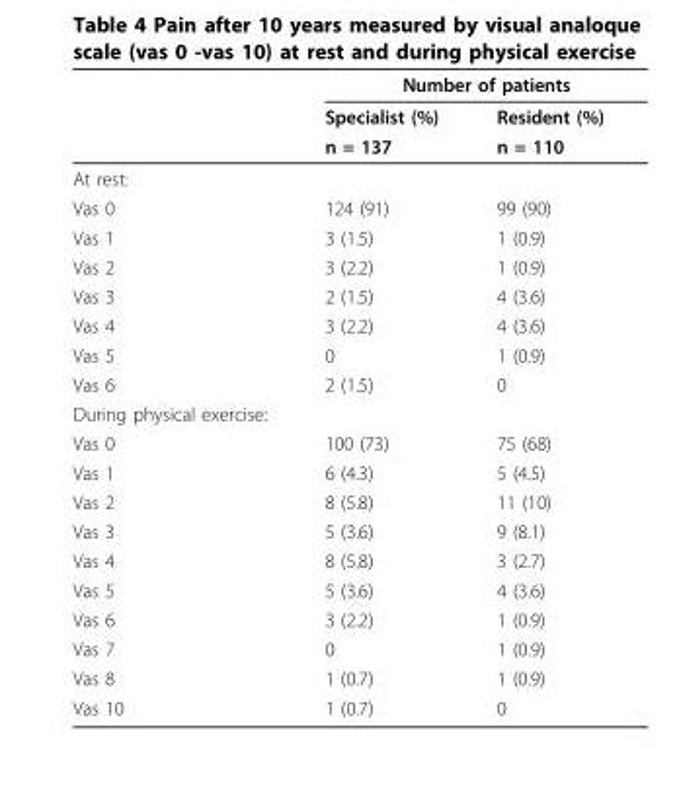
<table><thead><tr><td rowspan="3"></td><td colspan="2">Number of patients</td></tr><tr><td rowspan="2">Specialist (%) n = 137</td><td rowspan="2">Resident (%) n = 110</td></tr><tr></tr></thead><tbody><tr><td colspan="3">At rest:</td></tr><tr><td>Vas 0</td><td>124 (91)</td><td>99 (90)</td></tr><tr><td>Vas 1</td><td>3 (1.5)</td><td>1 (0.9)</td></tr><tr><td>Vas 2</td><td>3 (2.2)</td><td>1 (0.9)</td></tr><tr><td>Vas 3</td><td>2 (1.5)</td><td>4 (3.6)</td></tr><tr><td>Vas 4</td><td>3 (2.2)</td><td>4 (3.6)</td></tr><tr><td>Vas 5</td><td>0</td><td>1 (0.9)</td></tr><tr><td>Vas 6</td><td>2 (1.5)</td><td>0</td></tr><tr><td colspan="3">During physical exercise:</td></tr><tr><td>Vas 0</td><td>100 (73)</td><td>75 (68)</td></tr><tr><td>Vas 1</td><td>6 (4.3)</td><td>5 (4.5)</td></tr><tr><td>Vas 2</td><td>8 (5.8)</td><td>11 (10)</td></tr><tr><td>Vas 3</td><td>5 (3.6)</td><td>9 (8.1)</td></tr><tr><td>Vas 4</td><td>8 (5.8)</td><td>3 (2.7)</td></tr><tr><td>Vas 5</td><td>5 (3.6)</td><td>4 (3.6)</td></tr><tr><td>Vas 6</td><td>3 (2.2)</td><td>1 (0.9)</td></tr><tr><td>Vas 7</td><td>0</td><td>1 (0.9)</td></tr><tr><td>Vas 8</td><td>1 (0.7)</td><td>1 (0.9)</td></tr><tr><td>Vas 10</td><td>1 (0.7)</td><td>0</td></tr></tbody></table>